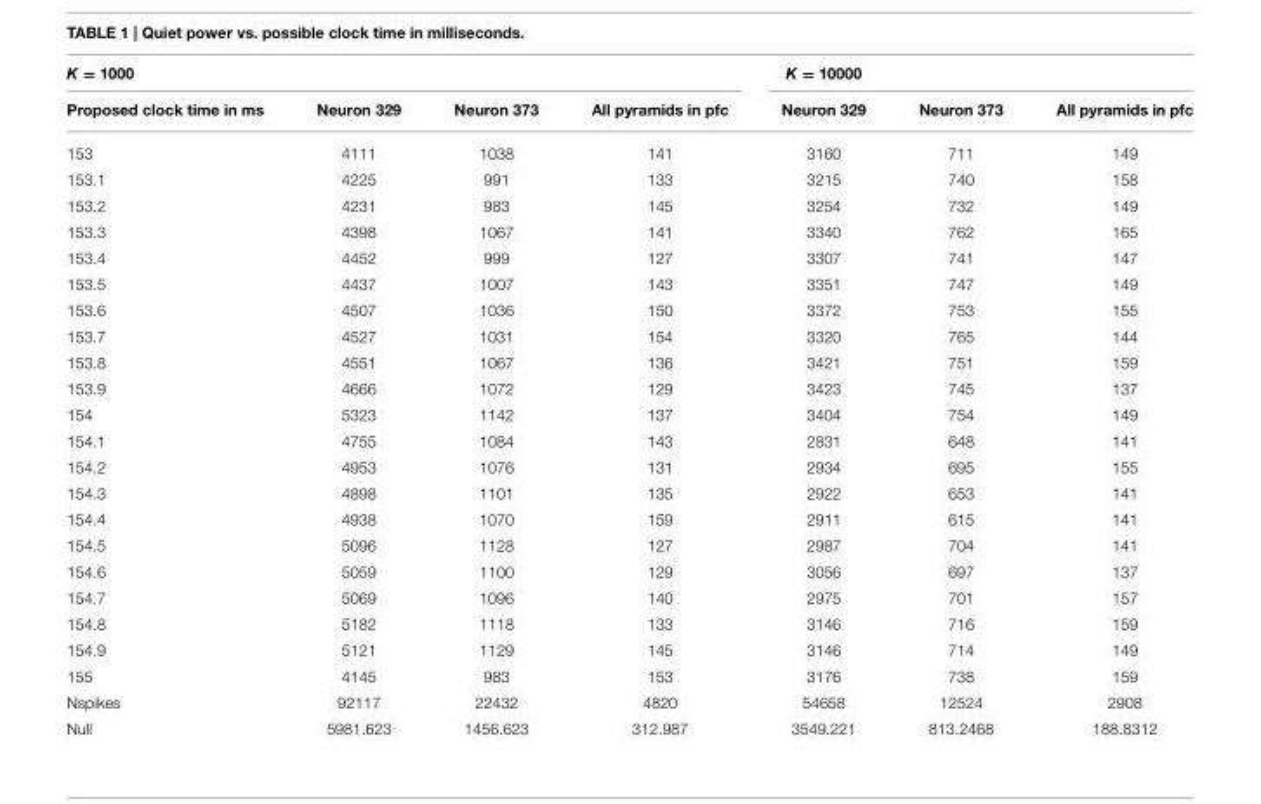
<table><thead><tr><td colspan="4">K = 1000</td><td colspan="3">K = 10000</td></tr><tr><td>Proposed clock time in ms</td><td>Neuron 329</td><td>Neuron 373</td><td>All pyramids in pfc</td><td>Neuron 329</td><td>Neuron 373</td><td>All pyramids in pfc</td></tr></thead><tbody><tr><td>153</td><td>4111</td><td>1038</td><td>141</td><td>3160</td><td>711</td><td>149</td></tr><tr><td>153.1</td><td>4225</td><td>991</td><td>133</td><td>3215</td><td>740</td><td>158</td></tr><tr><td>153.2</td><td>4231</td><td>983</td><td>145</td><td>3254</td><td>732</td><td>149</td></tr><tr><td>153.3</td><td>4398</td><td>1067</td><td>141</td><td>3340</td><td>762</td><td>165</td></tr><tr><td>153.4</td><td>4452</td><td>999</td><td>127</td><td>3307</td><td>741</td><td>147</td></tr><tr><td>153.5</td><td>4437</td><td>1007</td><td>143</td><td>3351</td><td>747</td><td>149</td></tr><tr><td>153.6</td><td>4507</td><td>1036</td><td>150</td><td>3372</td><td>753</td><td>155</td></tr><tr><td>153.7</td><td>4527</td><td>1031</td><td>154</td><td>3320</td><td>765</td><td>144</td></tr><tr><td>153.8</td><td>4551</td><td>1067</td><td>136</td><td>3421</td><td>751</td><td>159</td></tr><tr><td>153.9</td><td>4666</td><td>1072</td><td>129</td><td>3423</td><td>745</td><td>137</td></tr><tr><td>154</td><td>5323</td><td>1142</td><td>137</td><td>3404</td><td>754</td><td>149</td></tr><tr><td>154.1</td><td>4755</td><td>1084</td><td>143</td><td>2831</td><td>648</td><td>141</td></tr><tr><td>154.2</td><td>4953</td><td>1076</td><td>131</td><td>2934</td><td>695</td><td>155</td></tr><tr><td>154.3</td><td>4898</td><td>1101</td><td>135</td><td>2922</td><td>653</td><td>141</td></tr><tr><td>154.4</td><td>4938</td><td>1070</td><td>159</td><td>2911</td><td>615</td><td>141</td></tr><tr><td>154.5</td><td>5096</td><td>1128</td><td>127</td><td>2987</td><td>704</td><td>141</td></tr><tr><td>154.6</td><td>5059</td><td>1100</td><td>129</td><td>3056</td><td>697</td><td>137</td></tr><tr><td>154.7</td><td>5069</td><td>1096</td><td>140</td><td>2975</td><td>701</td><td>157</td></tr><tr><td>154.8</td><td>5182</td><td>1118</td><td>133</td><td>3146</td><td>716</td><td>159</td></tr><tr><td>154.9</td><td>5121</td><td>1129</td><td>145</td><td>3146</td><td>714</td><td>149</td></tr><tr><td>155</td><td>4145</td><td>983</td><td>153</td><td>3176</td><td>738</td><td>159</td></tr><tr><td>Nspikes</td><td>92117</td><td>22432</td><td>4820</td><td>54658</td><td>12524</td><td>2908</td></tr><tr><td>Null</td><td>5981.623</td><td>1456.623</td><td>312.987</td><td>3549.221</td><td>813.2468</td><td>188.8312</td></tr></tbody></table>